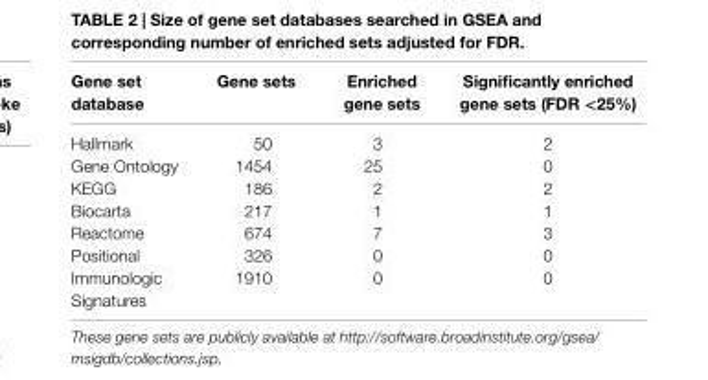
<table><thead><tr><td>gene set database</td><td>gene sets</td><td>enriched gene sets</td><td>significantly enriched gene sets (FDr &lt;25%)</td></tr></thead><tbody><tr><td>Hallmark</td><td>50</td><td>3</td><td>2</td></tr><tr><td>Gene Ontology</td><td>1454</td><td>25</td><td>0</td></tr><tr><td>KEGG</td><td>186</td><td>2</td><td>2</td></tr><tr><td>Biocarta</td><td>217</td><td>1</td><td>1</td></tr><tr><td>Reactome</td><td>674</td><td>7</td><td>3</td></tr><tr><td>Positional</td><td>326</td><td>0</td><td>0</td></tr><tr><td>Immunologic Signatures</td><td>1910</td><td>0</td><td>0</td></tr></tbody></table>